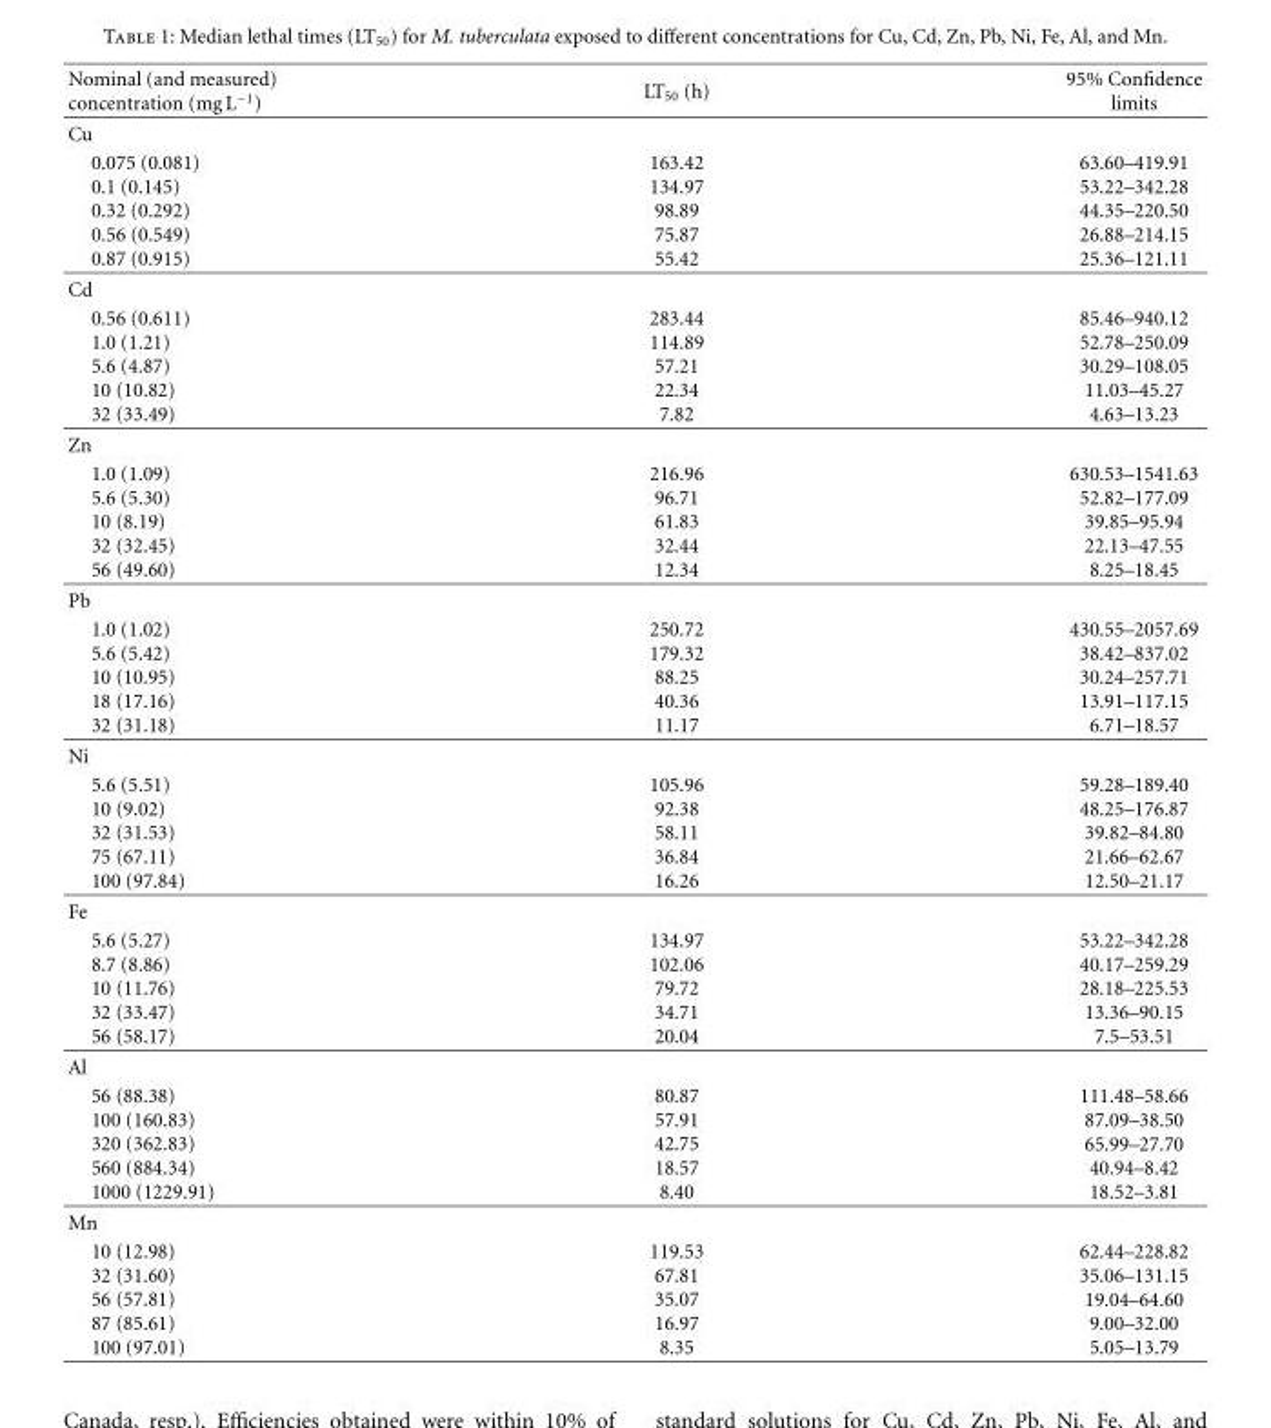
<table><thead><tr><td>Nominal (and measured) concentration (mg L<sup>−1</sup>)</td><td>LT<sub>50</sub> (h)</td><td>95% Confidence limits</td></tr></thead><tbody><tr><td colspan="3">Cu</td></tr><tr><td>0.075 (0.081) 0.1 (0.145) 0.32 (0.292) 0.56 (0.549) 0.87 (0.915)</td><td>163.42 134.97 98.89 75.87 55.42</td><td>63.60–419.91 53.22–342.28 44.35–220.50 26.88–214.15 25.36–121.11</td></tr><tr><td colspan="3">Cd</td></tr><tr><td>0.56 (0.611) 1.0 (1.21) 5.6 (4.87) 10 (10.82) 32 (33.49)</td><td>283.44 114.89 57.21 22.34 7.82</td><td>85.46–940.12 52.78–250.09 30.29–108.05 11.03–45.27 4.63–13.23</td></tr><tr><td colspan="3">Zn</td></tr><tr><td>1.0 (1.09) 5.6 (5.30) 10 (8.19) 32 (32.45) 56 (49.60)</td><td>216.96 96.71 61.83 32.44 12.34</td><td>630.53–1541.63 52.82–177.09 39.85–95.94 22.13–47.55 8.25–18.45</td></tr><tr><td colspan="3">Pb</td></tr><tr><td>1.0 (1.02) 5.6 (5.42) 10 (10.95) 18 (17.16) 32 (31.18)</td><td>250.72 179.32 88.25 40.36 11.17</td><td>430.55–2057.69 38.42–837.02 30.24–257.71 13.91–117.15 6.71–18.57</td></tr><tr><td colspan="3">Ni</td></tr><tr><td>5.6 (5.51) 10 (9.02) 32 (31.53) 75 (67.11) 100 (97.84)</td><td>105.96 92.38 58.11 36.84 16.26</td><td>59.28–189.40 48.25–176.87 39.82–84.80 21.66–62.67 12.50–21.17</td></tr><tr><td colspan="3">Fe</td></tr><tr><td>5.6 (5.27) 8.7 (8.86) 10 (11.76) 32 (33.47) 56 (58.17)</td><td>134.97 102.06 79.72 34.71 20.04</td><td>53.22–342.28 40.17–259.29 28.18–225.53 13.36–90.15 7.5–53.51</td></tr><tr><td colspan="3">Al</td></tr><tr><td>56 (88.38) 100 (160.83) 320 (362.83) 560 (884.34) 1000 (1229.91)</td><td>80.87 57.91 42.75 18.57 8.40</td><td>111.48–58.66 87.09–38.50 65.99–27.70 40.94–8.42 18.52–3.81</td></tr><tr><td colspan="3">Mn</td></tr><tr><td>10 (12.98) 32 (31.60) 56 (57.81) 87 (85.61) 100 (97.01)</td><td>119.53 67.81 35.07 16.97 8.35</td><td>62.44–228.82 35.06–131.15 19.04–64.60 9.00–32.00 5.05–13.79</td></tr></tbody></table>